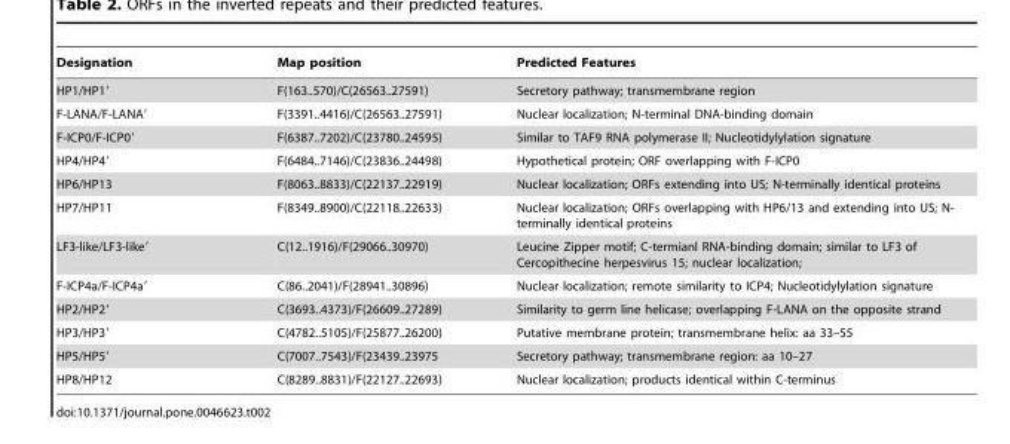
<table><thead><tr><td>Designation</td><td>Map position</td><td>Predicted Features</td></tr></thead><tbody><tr><td>HP1/HP1′</td><td>F(163..570)/C(26563..27591)</td><td>Secretory pathway; transmembrane region</td></tr><tr><td>F-LANA/F-LANA′</td><td>F(3391..4416)/C(26563..27591)</td><td>Nuclear localization; N-terminal DNA-binding domain</td></tr><tr><td>F-ICP0/F-ICP0′</td><td>F(6387..7202)/C(23780..24595)</td><td>Similar to TAF9 RNA polymerase II; Nucleotidylylation signature</td></tr><tr><td>HP4/HP4′</td><td>F(6484..7146)/C(23836..24498)</td><td>Hypothetical protein; ORF overlapping with F-ICP0</td></tr><tr><td>HP6/HP13</td><td>F(8063..8833)/C(22137..22919)</td><td>Nuclear localization; ORFs extending into US; N-terminally identical proteins</td></tr><tr><td>HP7/HP11</td><td>F(8349..8900)/C(22118..22633)</td><td>Nuclear localization; ORFs overlapping with HP6/13 and extending into US; N- terminally identical proteins</td></tr><tr><td>LF3-like/LF3-like′</td><td>C(12..1916)/F(29066..30970)</td><td>Leucine Zipper motif; C-termianl RNA-binding domain; similar to LF3 of Cercopithecine herpesvirus 15; nuclear localization;</td></tr><tr><td>F-ICP4a/F-ICP4a′</td><td>C(86..2041)/F(28941..30896)</td><td>Nuclear localization; remote similarity to ICP4; Nucleotidylylation signature</td></tr><tr><td>HP2/HP2′</td><td>C(3693..4373)/F(26609..27289)</td><td>Similarity to germ line helicase; overlapping F-LANA on the opposite strand</td></tr><tr><td>HP3/HP3′</td><td>C(4782..5105)/F(25877..26200)</td><td>Putative membrane protein; transmembrane helix: aa 33–55</td></tr><tr><td>HP5/HP5′</td><td>C(7007..7543)/F(23439..23975</td><td>Secretory pathway; transmembrane region: aa 10–27</td></tr><tr><td>HP8/HP12</td><td>C(8289..8831)/F(22127..22693)</td><td>Nuclear localization; products identical within C-terminus</td></tr></tbody></table>